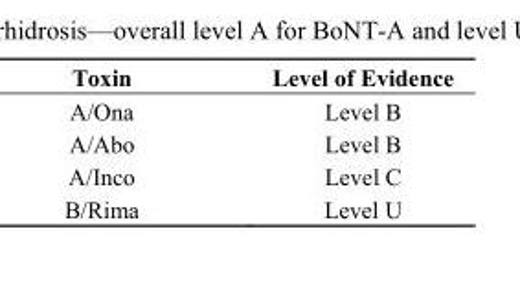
<table><thead><tr><td>Toxin</td><td>Level of Evidence</td></tr></thead><tbody><tr><td>A/Ona</td><td>Level B</td></tr><tr><td>A/Abo</td><td>Level B</td></tr><tr><td>A/Inco</td><td>Level C</td></tr><tr><td>B/Rima</td><td>Level U</td></tr></tbody></table>